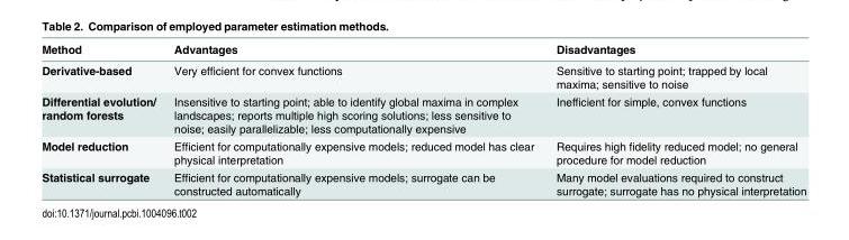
<table><thead><tr><td>Method</td><td>Advantages</td><td>Disadvantages</td></tr></thead><tbody><tr><td>Derivative-based</td><td>Very efficient for convex functions</td><td>Sensitive to starting point; trapped by local maxima; sensitive to noise</td></tr><tr><td>Differential evolution/ random forests</td><td>Insensitive to starting point; able to identify global maxima in complex landscapes; reports multiple high scoring solutions; less sensitive to noise; easily parallelizable; less computationally expensive</td><td>Inefficient for simple, convex functions</td></tr><tr><td>Model reduction</td><td>Efficient for computationally expensive models; reduced model has clear physical interpretation</td><td>Requires high fidelity reduced model; no general procedure for model reduction</td></tr><tr><td>Statistical surrogate</td><td>Efficient for computationally expensive models; surrogate can be constructed automatically</td><td>Many model evaluations required to construct surrogate; surrogate has no physical interpretation</td></tr></tbody></table>